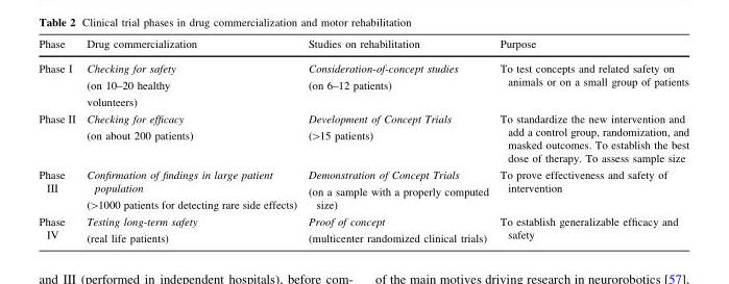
<table><thead><tr><td>Phase</td><td>Drug commercialization</td><td>Studies on rehabilitation</td><td>Purpose</td></tr></thead><tbody><tr><td>Phase I</td><td>Checking for safety (on 10–20 healthy volunteers)</td><td>Consideration-of-concept studies (on 6–12 patients)</td><td>To test concepts and related safety on animals or on a small group of patients</td></tr><tr><td>Phase II</td><td>Checking for efficacy (on about 200 patients)</td><td>Development of Concept Trials (&gt;15 patients)</td><td>To standardize the new intervention and add a control group, randomization, and masked outcomes. To establish the best dose of therapy. To assess sample size</td></tr><tr><td>Phase III</td><td>Confirmation of findings in large patient population (&gt;1000 patients for detecting rare side effects)</td><td>Demonstration of Concept Trials (on a sample with a properly computed size)</td><td>To prove effectiveness and safety of intervention</td></tr><tr><td>Phase IV</td><td>Testing long-term safety (real life patients)</td><td>Proof of concept (multicenter randomized clinical trials)</td><td>To establish generalizable efficacy and safety</td></tr></tbody></table>